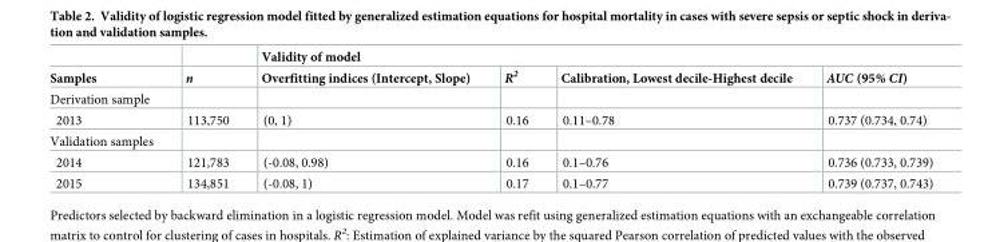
<table><thead><tr><td rowspan="2">Samples</td><td rowspan="2">n</td><td colspan="4">Validity of model</td></tr><tr><td>Overfitting indices (Intercept, Slope)</td><td>R<sup>2</sup></td><td>Calibration, Lowest decile-Highest decile</td><td>AUC (95% CI)</td></tr></thead><tbody><tr><td colspan="6">Derivation sample</td></tr><tr><td>2013</td><td>113,750</td><td>(0, 1)</td><td>0.16</td><td>0.11–0.78</td><td>0.737 (0.734, 0.74)</td></tr><tr><td colspan="6">Validation samples</td></tr><tr><td>2014</td><td>121,783</td><td>(-0.08, 0.98)</td><td>0.16</td><td>0.1–0.76</td><td>0.736 (0.733, 0.739)</td></tr><tr><td>2015</td><td>134,851</td><td>(-0.08, 1)</td><td>0.17</td><td>0.1–0.77</td><td>0.739 (0.737, 0.743)</td></tr></tbody></table>